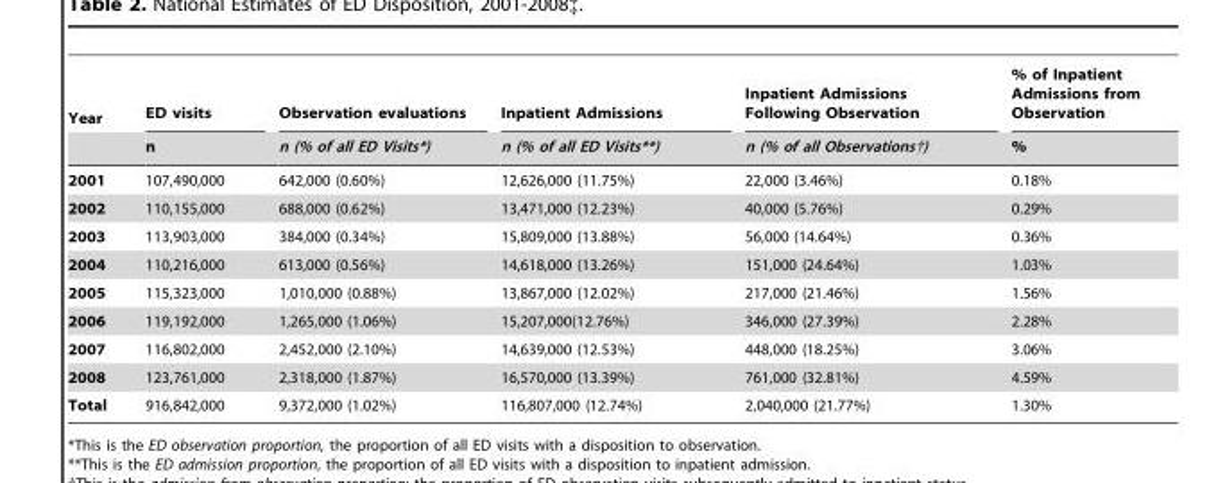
<table><thead><tr><td rowspan="2">Year</td><td rowspan="2">ED visits n</td><td rowspan="2">Observation evaluations n (% of all ED Visits*)</td><td rowspan="2">Inpatient Admissions n (% of all ED Visits**)</td><td rowspan="2">Inpatient Admissions Following Observation n (% of all Observations†)</td><td rowspan="2">% of Inpatient Admissions from Observation %</td></tr><tr></tr></thead><tbody><tr><td>2001</td><td>107,490,000</td><td>642,000 (0.60%)</td><td>12,626,000 (11.75%)</td><td>22,000 (3.46%)</td><td>0.18%</td></tr><tr><td>2002</td><td>110,155,000</td><td>688,000 (0.62%)</td><td>13,471,000 (12.23%)</td><td>40,000 (5.76%)</td><td>0.29%</td></tr><tr><td>2003</td><td>113,903,000</td><td>384,000 (0.34%)</td><td>15,809,000 (13.88%)</td><td>56,000 (14.64%)</td><td>0.36%</td></tr><tr><td>2004</td><td>110,216,000</td><td>613,000 (0.56%)</td><td>14,618,000 (13.26%)</td><td>151,000 (24.64%)</td><td>1.03%</td></tr><tr><td>2005</td><td>115,323,000</td><td>1,010,000 (0.88%)</td><td>13,867,000 (12.02%)</td><td>217,000 (21.46%)</td><td>1.56%</td></tr><tr><td>2006</td><td>119,192,000</td><td>1,265,000 (1.06%)</td><td>15,207,000(12.76%)</td><td>346,000 (27.39%)</td><td>2.28%</td></tr><tr><td>2007</td><td>116,802,000</td><td>2,452,000 (2.10%)</td><td>14,639,000 (12.53%)</td><td>448,000 (18.25%)</td><td>3.06%</td></tr><tr><td>2008</td><td>123,761,000</td><td>2,318,000 (1.87%)</td><td>16,570,000 (13.39%)</td><td>761,000 (32.81%)</td><td>4.59%</td></tr><tr><td>Total</td><td>916,842,000</td><td>9,372,000 (1.02%)</td><td>116,807,000 (12.74%)</td><td>2,040,000 (21.77%)</td><td>1.30%</td></tr></tbody></table>